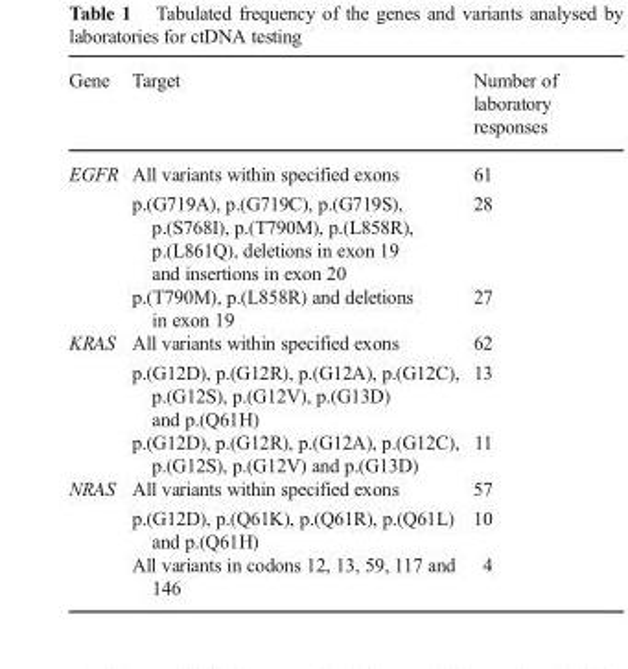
<table><thead><tr><td>Gene</td><td>Target</td><td>Number of laboratory responses</td></tr></thead><tbody><tr><td rowspan="3">EGFR</td><td>All variants within specified exons</td><td>61</td></tr><tr><td>p.(G719A), p.(G719C), p.(G719S), p.(S768I), p.(T790M), p.(L858R), p.(L861Q), deletions in exon 19 and insertions in exon 20</td><td>28</td></tr><tr><td>p.(T790M), p.(L858R) and deletions in exon 19</td><td>27</td></tr><tr><td rowspan="3">KRAS</td><td>All variants within specified exons</td><td>62</td></tr><tr><td>p.(G12D), p.(G12R), p.(G12A), p.(G12C), p.(G12S), p.(G12V), p.(G13D) and p.(Q61H)</td><td>13</td></tr><tr><td>p.(G12D), p.(G12R), p.(G12A), p.(G12C), p.(G12S), p.(G12V) and p.(G13D)</td><td>11</td></tr><tr><td rowspan="3">NRAS</td><td>All variants within specified exons</td><td>57</td></tr><tr><td>p.(G12D), p.(Q61K), p.(Q61R), p.(Q61L) and p.(Q61H)</td><td>10</td></tr><tr><td>All variants in codons 12, 13, 59, 117 and 146</td><td>4</td></tr></tbody></table>